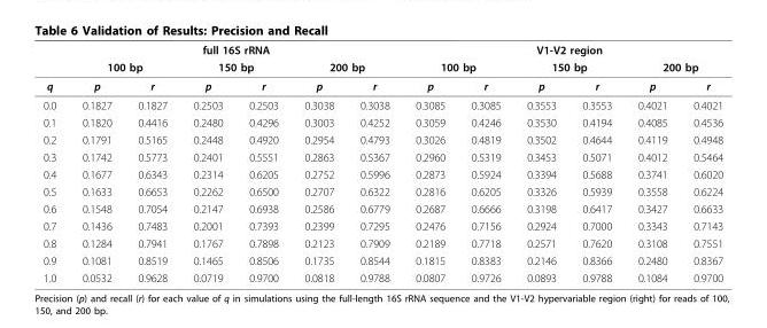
<table><thead><tr><td rowspan="3">q</td><td colspan="6">full 16S rRNA</td><td colspan="6">V1-V2 region</td></tr><tr><td colspan="2">100 bp</td><td colspan="2">150 bp</td><td colspan="2">200 bp</td><td colspan="2">100 bp</td><td colspan="2">150 bp</td><td colspan="2">200 bp</td></tr><tr><td>p</td><td>r</td><td>p</td><td>r</td><td>p</td><td>r</td><td>p</td><td>r</td><td>p</td><td>r</td><td>p</td><td>r</td></tr></thead><tbody><tr><td>0.0</td><td>0.1827</td><td>0.1827</td><td>0.2503</td><td>0.2503</td><td>0.3038</td><td>0.3038</td><td>0.3085</td><td>0.3085</td><td>0.3553</td><td>0.3553</td><td>0.4021</td><td>0.4021</td></tr><tr><td>0.1</td><td>0.1820</td><td>0.4416</td><td>0.2480</td><td>0.4296</td><td>0.3003</td><td>0.4252</td><td>0.3059</td><td>0.4246</td><td>0.3530</td><td>0.4194</td><td>0.4085</td><td>0.4536</td></tr><tr><td>0.2</td><td>0.1791</td><td>0.5165</td><td>0.2448</td><td>0.4920</td><td>0.2954</td><td>0.4793</td><td>0.3026</td><td>0.4819</td><td>0.3502</td><td>0.4644</td><td>0.4119</td><td>0.4948</td></tr><tr><td>0.3</td><td>0.1742</td><td>0.5773</td><td>0.2401</td><td>0.5551</td><td>0.2863</td><td>0.5367</td><td>0.2960</td><td>0.5319</td><td>0.3453</td><td>0.5071</td><td>0.4012</td><td>0.5464</td></tr><tr><td>0.4</td><td>0.1677</td><td>0.6343</td><td>0.2314</td><td>0.6205</td><td>0.2752</td><td>0.5996</td><td>0.2873</td><td>0.5924</td><td>0.3394</td><td>0.5688</td><td>0.3741</td><td>0.6020</td></tr><tr><td>0.5</td><td>0.1633</td><td>0.6653</td><td>0.2262</td><td>0.6500</td><td>0.2707</td><td>0.6322</td><td>0.2816</td><td>0.6205</td><td>0.3326</td><td>0.5939</td><td>0.3558</td><td>0.6224</td></tr><tr><td>0.6</td><td>0.1548</td><td>0.7054</td><td>0.2147</td><td>0.6938</td><td>0.2586</td><td>0.6779</td><td>0.2687</td><td>0.6666</td><td>0.3198</td><td>0.6417</td><td>0.3427</td><td>0.6633</td></tr><tr><td>0.7</td><td>0.1436</td><td>0.7483</td><td>0.2001</td><td>0.7393</td><td>0.2399</td><td>0.7295</td><td>0.2476</td><td>0.7156</td><td>0.2924</td><td>0.7000</td><td>0.3343</td><td>0.7143</td></tr><tr><td>0.8</td><td>0.1284</td><td>0.7941</td><td>0.1767</td><td>0.7898</td><td>0.2123</td><td>0.7909</td><td>0.2189</td><td>0.7718</td><td>0.2571</td><td>0.7620</td><td>0.3108</td><td>0.7551</td></tr><tr><td>0.9</td><td>0.1081</td><td>0.8519</td><td>0.1465</td><td>0.8506</td><td>0.1735</td><td>0.8544</td><td>0.1815</td><td>0.8383</td><td>0.2146</td><td>0.8366</td><td>0.2480</td><td>0.8367</td></tr><tr><td>1.0</td><td>0.0532</td><td>0.9628</td><td>0.0719</td><td>0.9700</td><td>0.0818</td><td>0.9788</td><td>0.0807</td><td>0.9726</td><td>0.0893</td><td>0.9788</td><td>0.1084</td><td>0.9700</td></tr></tbody></table>